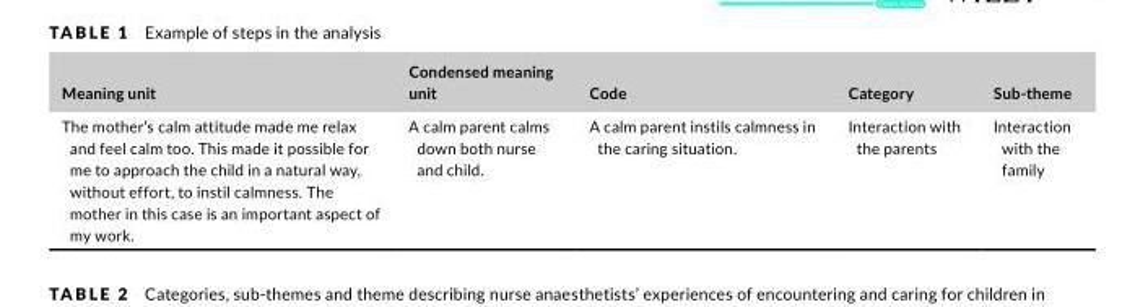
<table><thead><tr><td>Meaning unit</td><td>Condensed meaning unit</td><td>Code</td><td>Category</td><td>Sub- theme</td></tr></thead><tbody><tr><td>The mother’s calm attitude made me relax and feel calm too. This made it possible for me to approach the child in a natural way, without effort, to instil calmness. The mother in this case is an important aspect of my work.</td><td>A calm parent calms down both nurse and child.</td><td>A calm parent instils calmness in the caring situation.</td><td>Interaction with the parents</td><td>Interaction with the family</td></tr></tbody></table>